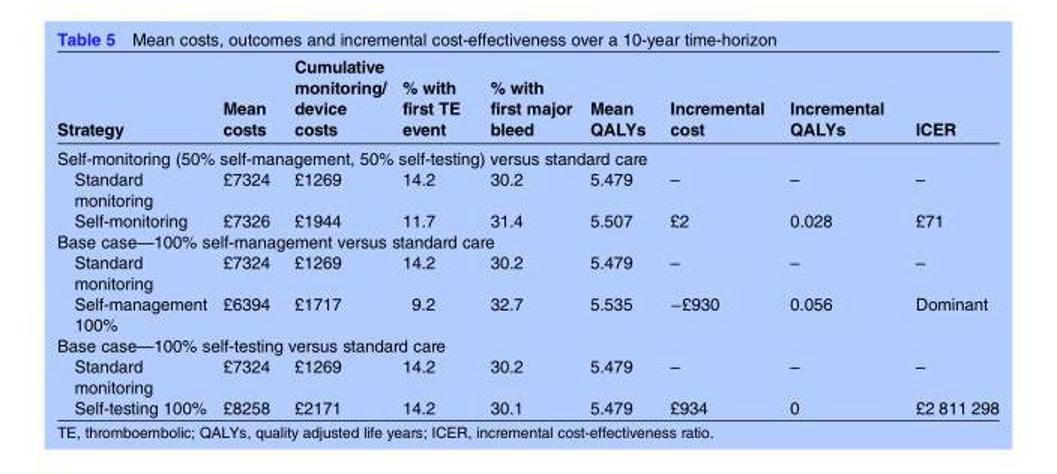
<table><thead><tr><td>Strategy</td><td>Mean costs</td><td>Cumulative monitoring/ device costs</td><td>% with first TE event</td><td>% with first major bleed</td><td>Mean QALYs</td><td>Incremental cost</td><td>Incremental QALYs</td><td>ICER</td></tr></thead><tbody><tr><td colspan="9">Self-monitoring (50% self-management, 50% self-testing) versus standard care</td></tr><tr><td>Standard monitoring</td><td>£7324</td><td>£1269</td><td>14.2</td><td>30.2</td><td>5.479</td><td>–</td><td>–</td><td>–</td></tr><tr><td>Self-monitoring</td><td>£7326</td><td>£1944</td><td>11.7</td><td>31.4</td><td>5.507</td><td>£2</td><td>0.028</td><td>£71</td></tr><tr><td colspan="9">Base case—100% self-management versus standard care</td></tr><tr><td>Standard monitoring</td><td>£7324</td><td>£1269</td><td>14.2</td><td>30.2</td><td>5.479</td><td>–</td><td>–</td><td>–</td></tr><tr><td>Self-management 100%</td><td>£6394</td><td>£1717</td><td>9.2</td><td>32.7</td><td>5.535</td><td>−£930</td><td>0.056</td><td>Dominant</td></tr><tr><td colspan="9">Base case—100% self-testing versus standard care</td></tr><tr><td>Standard monitoring</td><td>£7324</td><td>£1269</td><td>14.2</td><td>30.2</td><td>5.479</td><td>–</td><td>–</td><td>–</td></tr><tr><td>Self-testing 100%</td><td>£8258</td><td>£2171</td><td>14.2</td><td>30.1</td><td>5.479</td><td>£934</td><td>0</td><td>£2 811 298</td></tr></tbody></table>